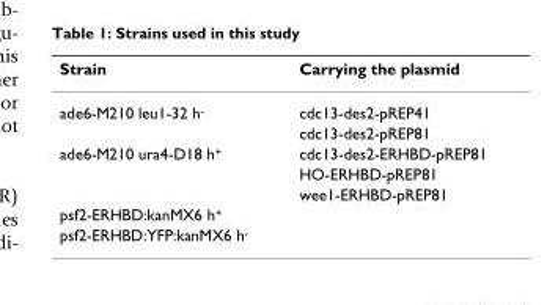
<table><thead><tr><td>Strain</td><td>Carrying the plasmid</td></tr></thead><tbody><tr><td rowspan="2">ade6-M210 leu1-32 h<sup>-</sup></td><td>cdc13-des2-pREP41</td></tr><tr><td>cdc13-des2-pREP81</td></tr><tr><td rowspan="3">ade6-M210 ura4-D18 h<sup>+</sup></td><td>cdc13-des2-ERHBD-pREP81</td></tr><tr><td>HO-ERHBD-pREP81</td></tr><tr><td>wee1-ERHBD-pREP81</td></tr><tr><td colspan="2">psf2-ERHBD:kanMX6 h<sup>+</sup></td></tr><tr><td>psf2-ERHBD:YFP:kanMX6 h<sup>-</sup></td><td></td></tr></tbody></table>